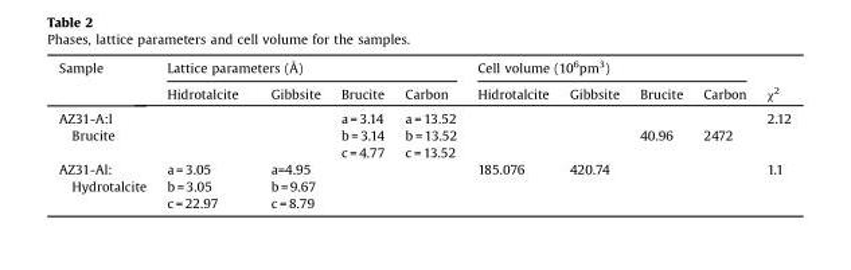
<table><thead><tr><td rowspan="2">Sample</td><td colspan="4">Lattice parameters (Å)</td><td colspan="4">Cell volume (10<sup>6</sup>pm<sup>3</sup>)</td><td rowspan="2">χ<sup>2</sup></td></tr><tr><td>Hidrotalcite</td><td>Gibbsite</td><td>Brucite</td><td>Carbon</td><td>Hidrotalcite</td><td>Gibbsite</td><td>Brucite</td><td>Carbon</td></tr></thead><tbody><tr><td rowspan="3">AZ31-A:l Brucite</td><td rowspan="3"></td><td rowspan="3"></td><td>a = 3.14</td><td>a = 13.52</td><td rowspan="3"></td><td rowspan="3"></td><td></td><td></td><td rowspan="3">2.12</td></tr><tr><td>b = 3.14</td><td>b = 13.52</td><td>40.96</td><td>2472</td></tr><tr><td>c = 4.77</td><td>c = 13.52</td><td></td><td></td></tr><tr><td rowspan="3">AZ31-Al: Hydrotalcite</td><td>a = 3.05</td><td>a=4.95</td><td></td><td></td><td>185.076</td><td>420.74</td><td></td><td></td><td rowspan="3">1.1</td></tr><tr><td>b = 3.05</td><td>b = 9.67</td><td></td><td></td><td></td><td></td><td></td><td></td></tr><tr><td>c = 22.97</td><td>c = 8.79</td><td></td><td></td><td></td><td></td><td></td><td></td></tr></tbody></table>